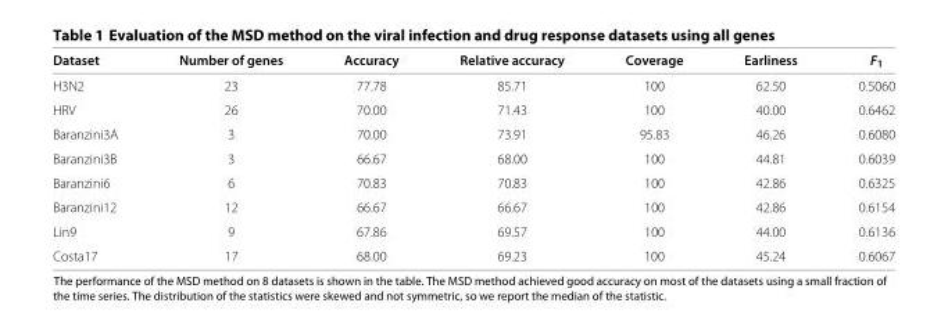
<table><thead><tr><td>Dataset</td><td>Number of genes</td><td>Accuracy</td><td>Relative accuracy</td><td>Coverage</td><td>Earliness</td><td>F<sub>1</sub></td></tr></thead><tbody><tr><td>H3N2</td><td>23</td><td>77.78</td><td>85.71</td><td>100</td><td>62.50</td><td>0.5060</td></tr><tr><td>HRV</td><td>26</td><td>70.00</td><td>71.43</td><td>100</td><td>40.00</td><td>0.6462</td></tr><tr><td>Baranzini3A</td><td>3</td><td>70.00</td><td>73.91</td><td>95.83</td><td>46.26</td><td>0.6080</td></tr><tr><td>Baranzini3B</td><td>3</td><td>66.67</td><td>68.00</td><td>100</td><td>44.81</td><td>0.6039</td></tr><tr><td>Baranzini6</td><td>6</td><td>70.83</td><td>70.83</td><td>100</td><td>42.86</td><td>0.6325</td></tr><tr><td>Baranzini12</td><td>12</td><td>66.67</td><td>66.67</td><td>100</td><td>42.86</td><td>0.6154</td></tr><tr><td>Lin9</td><td>9</td><td>67.86</td><td>69.57</td><td>100</td><td>44.00</td><td>0.6136</td></tr><tr><td>Costa17</td><td>17</td><td>68.00</td><td>69.23</td><td>100</td><td>45.24</td><td>0.6067</td></tr></tbody></table>